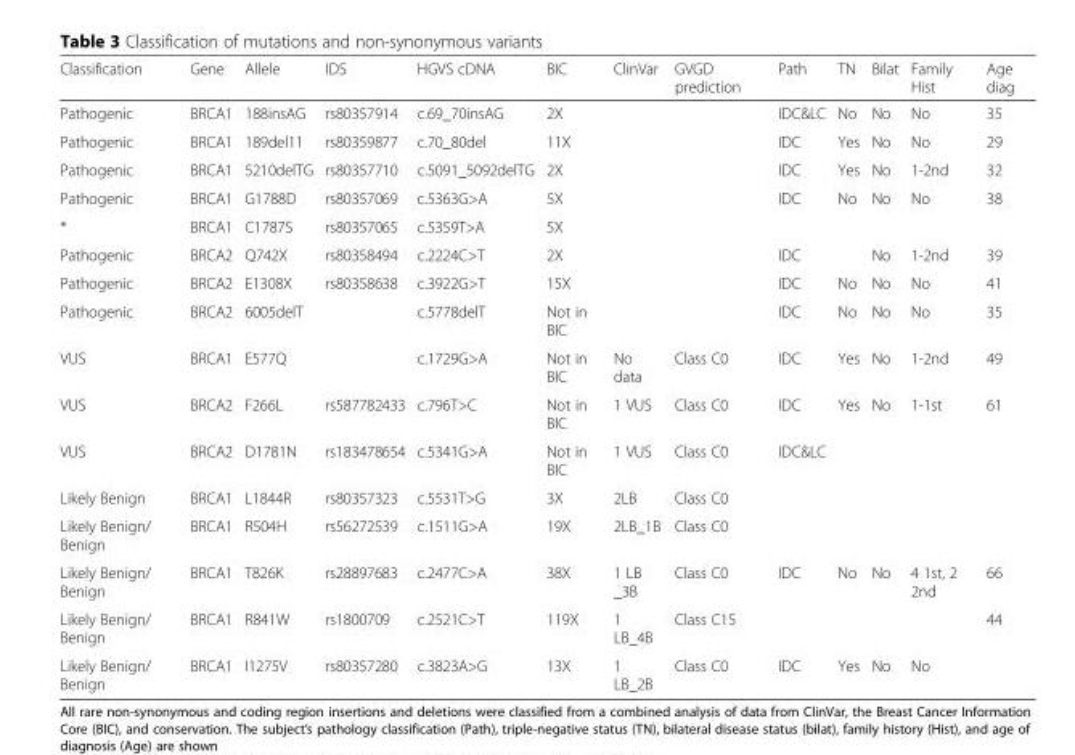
<table><thead><tr><td>Classification</td><td>Gene</td><td>Allele</td><td>IDS</td><td>HGVS cDNA</td><td>BIC</td><td>ClinVar</td><td>GVGD prediction</td><td>Path</td><td>TN</td><td>Bilat</td><td>Family Hist</td><td>Age diag</td></tr></thead><tbody><tr><td>Pathogenic</td><td>BRCA1</td><td>188insAG</td><td>rs80357914</td><td>c.69_70insAG</td><td>2X</td><td></td><td></td><td>IDC&amp;LC</td><td>No</td><td>No</td><td>No</td><td>35</td></tr><tr><td>Pathogenic</td><td>BRCA1</td><td>189del11</td><td>rs80359877</td><td>c.70_80del</td><td>11X</td><td></td><td></td><td>IDC</td><td>Yes</td><td>No</td><td>No</td><td>29</td></tr><tr><td>Pathogenic</td><td>BRCA1</td><td>5210delTG</td><td>rs80357710</td><td>c.5091_5092delTG</td><td>2X</td><td></td><td></td><td>IDC</td><td>Yes</td><td>No</td><td>1-2nd</td><td>32</td></tr><tr><td>Pathogenic</td><td>BRCA1</td><td>G1788D</td><td>rs80357069</td><td>c.5363G&gt;A</td><td>5X</td><td></td><td></td><td>IDC</td><td>No</td><td>No</td><td>No</td><td>38</td></tr><tr><td>*</td><td>BRCA1</td><td>C1787S</td><td>rs80357065</td><td>c.5359T&gt;A</td><td>5X</td><td></td><td></td><td></td><td></td><td></td><td></td><td></td></tr><tr><td>Pathogenic</td><td>BRCA2</td><td>Q742X</td><td>rs80358494</td><td>c.2224C&gt;T</td><td>2X</td><td></td><td></td><td>IDC</td><td></td><td>No</td><td>1-2nd</td><td>39</td></tr><tr><td>Pathogenic</td><td>BRCA2</td><td>E1308X</td><td>rs80358638</td><td>c.3922G&gt;T</td><td>15X</td><td></td><td></td><td>IDC</td><td>No</td><td>No</td><td>No</td><td>41</td></tr><tr><td>Pathogenic</td><td>BRCA2</td><td>6005delT</td><td></td><td>c.5778delT</td><td>Not in BIC</td><td></td><td></td><td>IDC</td><td>No</td><td>No</td><td>No</td><td>35</td></tr><tr><td>VUS</td><td>BRCA1</td><td>E577Q</td><td></td><td>c.1729G&gt;A</td><td>Not in BIC</td><td>No data</td><td>Class C0</td><td>IDC</td><td>Yes</td><td>No</td><td>1-2nd</td><td>49</td></tr><tr><td>VUS</td><td>BRCA2</td><td>F266L</td><td>rs587782433</td><td>c.796T&gt;C</td><td>Not in BIC</td><td>1 VUS</td><td>Class C0</td><td>IDC</td><td>Yes</td><td>No</td><td>1-1st</td><td>61</td></tr><tr><td>VUS</td><td>BRCA2</td><td>D1781N</td><td>rs183478654</td><td>c.5341G&gt;A</td><td>Not in BIC</td><td>1 VUS</td><td>Class C0</td><td>IDC&amp;LC</td><td></td><td></td><td></td><td></td></tr><tr><td>Likely Benign</td><td>BRCA1</td><td>L1844R</td><td>rs80357323</td><td>c.5531T&gt;G</td><td>3X</td><td>2LB</td><td>Class C0</td><td></td><td></td><td></td><td></td><td></td></tr><tr><td>Likely Benign/ Benign</td><td>BRCA1</td><td>R504H</td><td>rs56272539</td><td>c.1511G&gt;A</td><td>19X</td><td>2LB_1B</td><td>Class C0</td><td></td><td></td><td></td><td></td><td></td></tr><tr><td>Likely Benign/ Benign</td><td>BRCA1</td><td>T826K</td><td>rs28897683</td><td>c.2477C&gt;A</td><td>38X</td><td>1 LB _3B</td><td>Class C0</td><td>IDC</td><td>No</td><td>No</td><td>4 1st, 2 2nd</td><td>66</td></tr><tr><td>Likely Benign/ Benign</td><td>BRCA1</td><td>R841W</td><td>rs1800709</td><td>c.2521C&gt;T</td><td>119X</td><td>1 LB_4B</td><td>Class C15</td><td></td><td></td><td></td><td></td><td>44</td></tr><tr><td>Likely Benign/ Benign</td><td>BRCA1</td><td>I1275V</td><td>rs80357280</td><td>c.3823A&gt;G</td><td>13X</td><td>1 LB_2B</td><td>Class C0</td><td>IDC</td><td>Yes</td><td>No</td><td>No</td><td></td></tr></tbody></table>